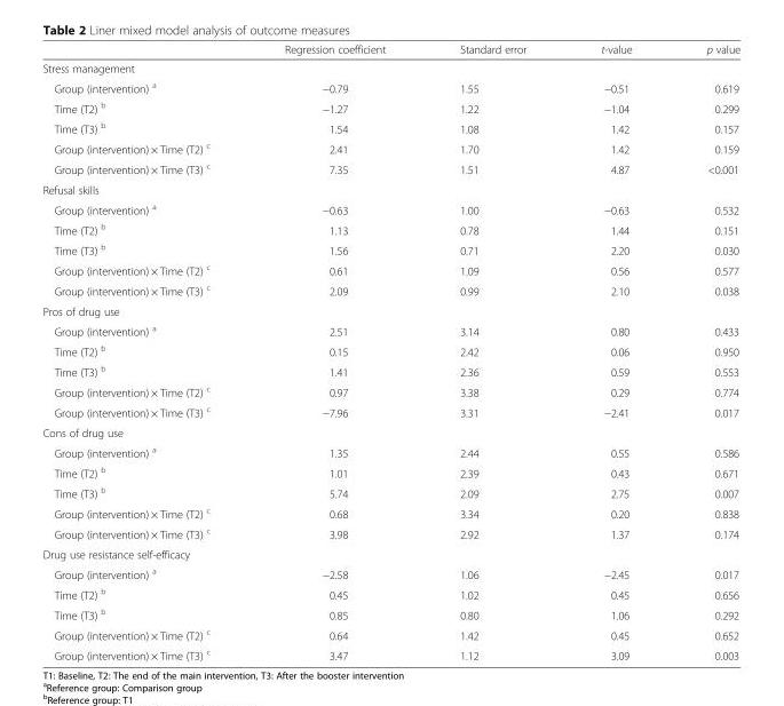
<table><thead><tr><td></td><td>Regression coefficient</td><td>Standard error</td><td>t-value</td><td>p value</td></tr></thead><tbody><tr><td colspan="5">Stress management</td></tr><tr><td>Group (intervention) <sup>a</sup></td><td>−0.79</td><td>1.55</td><td>−0.51</td><td>0.619</td></tr><tr><td>Time (T2) <sup>b</sup></td><td>−1.27</td><td>1.22</td><td>−1.04</td><td>0.299</td></tr><tr><td>Time (T3) <sup>b</sup></td><td>1.54</td><td>1.08</td><td>1.42</td><td>0.157</td></tr><tr><td>Group (intervention) × Time (T2) <sup>c</sup></td><td>2.41</td><td>1.70</td><td>1.42</td><td>0.159</td></tr><tr><td>Group (intervention) × Time (T3) <sup>c</sup></td><td>7.35</td><td>1.51</td><td>4.87</td><td>&lt;0.001</td></tr><tr><td colspan="5">Refusal skills</td></tr><tr><td>Group (intervention) <sup>a</sup></td><td>−0.63</td><td>1.00</td><td>−0.63</td><td>0.532</td></tr><tr><td>Time (T2) <sup>b</sup></td><td>1.13</td><td>0.78</td><td>1.44</td><td>0.151</td></tr><tr><td>Time (T3) <sup>b</sup></td><td>1.56</td><td>0.71</td><td>2.20</td><td>0.030</td></tr><tr><td>Group (intervention) × Time (T2) <sup>c</sup></td><td>0.61</td><td>1.09</td><td>0.56</td><td>0.577</td></tr><tr><td>Group (intervention) × Time (T3) <sup>c</sup></td><td>2.09</td><td>0.99</td><td>2.10</td><td>0.038</td></tr><tr><td colspan="5">Pros of drug use</td></tr><tr><td>Group (intervention) <sup>a</sup></td><td>2.51</td><td>3.14</td><td>0.80</td><td>0.433</td></tr><tr><td>Time (T2) <sup>b</sup></td><td>0.15</td><td>2.42</td><td>0.06</td><td>0.950</td></tr><tr><td>Time (T3) <sup>b</sup></td><td>1.41</td><td>2.36</td><td>0.59</td><td>0.553</td></tr><tr><td>Group (intervention) × Time (T2) <sup>c</sup></td><td>0.97</td><td>3.38</td><td>0.29</td><td>0.774</td></tr><tr><td>Group (intervention) × Time (T3) <sup>c</sup></td><td>−7.96</td><td>3.31</td><td>−2.41</td><td>0.017</td></tr><tr><td colspan="5">Cons of drug use</td></tr><tr><td>Group (intervention) <sup>a</sup></td><td>1.35</td><td>2.44</td><td>0.55</td><td>0.586</td></tr><tr><td>Time (T2) <sup>b</sup></td><td>1.01</td><td>2.39</td><td>0.43</td><td>0.671</td></tr><tr><td>Time (T3) <sup>b</sup></td><td>5.74</td><td>2.09</td><td>2.75</td><td>0.007</td></tr><tr><td>Group (intervention) × Time (T2) <sup>c</sup></td><td>0.68</td><td>3.34</td><td>0.20</td><td>0.838</td></tr><tr><td>Group (intervention) × Time (T3) <sup>c</sup></td><td>3.98</td><td>2.92</td><td>1.37</td><td>0.174</td></tr><tr><td colspan="5">Drug use resistance self-efficacy</td></tr><tr><td>Group (intervention) <sup>a</sup></td><td>−2.58</td><td>1.06</td><td>−2.45</td><td>0.017</td></tr><tr><td>Time (T2) <sup>b</sup></td><td>0.45</td><td>1.02</td><td>0.45</td><td>0.656</td></tr><tr><td>Time (T3) <sup>b</sup></td><td>0.85</td><td>0.80</td><td>1.06</td><td>0.292</td></tr><tr><td>Group (intervention) × Time (T2) <sup>c</sup></td><td>0.64</td><td>1.42</td><td>0.45</td><td>0.652</td></tr><tr><td>Group (intervention) × Time (T3) <sup>c</sup></td><td>3.47</td><td>1.12</td><td>3.09</td><td>0.003</td></tr></tbody></table>